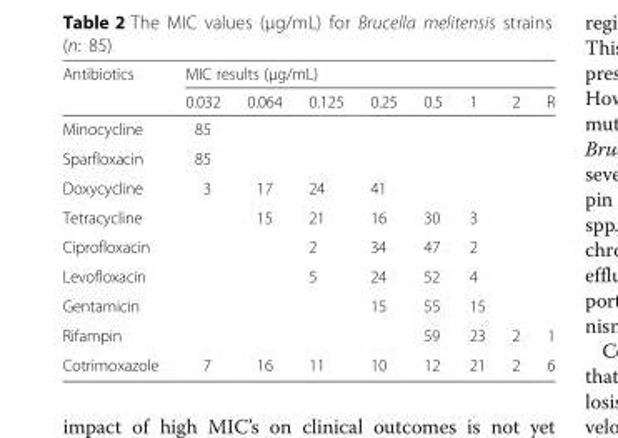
<table><thead><tr><td rowspan="2">Antibiotics</td><td colspan="8">MIC results (μg/mL)</td></tr><tr><td>0.032</td><td>0.064</td><td>0.125</td><td>0.25</td><td>0.5</td><td>1</td><td>2</td><td>R</td></tr></thead><tbody><tr><td>Minocycline</td><td>85</td><td></td><td></td><td></td><td></td><td></td><td></td><td></td></tr><tr><td>Sparfloxacin</td><td>85</td><td></td><td></td><td></td><td></td><td></td><td></td><td></td></tr><tr><td>Doxycycline</td><td>3</td><td>17</td><td>24</td><td>41</td><td></td><td></td><td></td><td></td></tr><tr><td>Tetracycline</td><td></td><td>15</td><td>21</td><td>16</td><td>30</td><td>3</td><td></td><td></td></tr><tr><td>Ciprofloxacin</td><td></td><td></td><td>2</td><td>34</td><td>47</td><td>2</td><td></td><td></td></tr><tr><td>Levofloxacin</td><td></td><td></td><td>5</td><td>24</td><td>52</td><td>4</td><td></td><td></td></tr><tr><td>Gentamicin</td><td></td><td></td><td></td><td>15</td><td>55</td><td>15</td><td></td><td></td></tr><tr><td>Rifampin</td><td></td><td></td><td></td><td></td><td>59</td><td>23</td><td>2</td><td>1</td></tr><tr><td>Cotrimoxazole</td><td>7</td><td>16</td><td>11</td><td>10</td><td>12</td><td>21</td><td>2</td><td>6</td></tr></tbody></table>